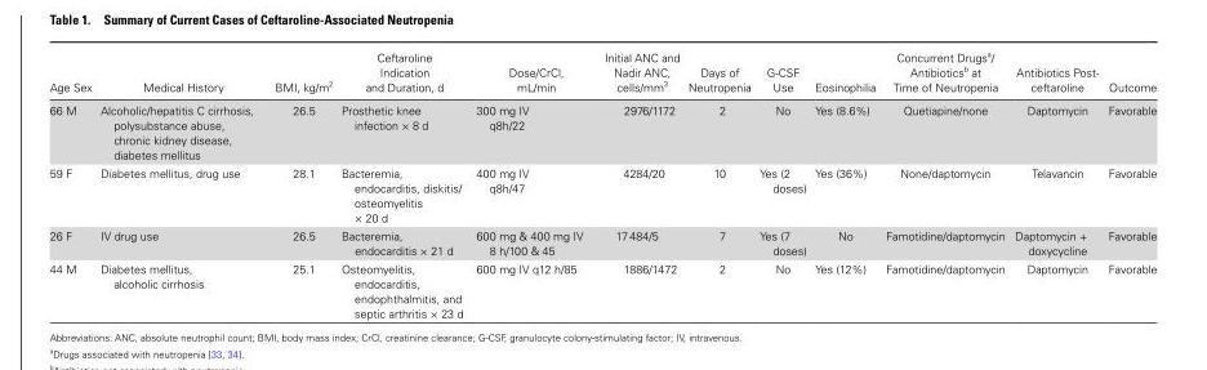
<table><thead><tr><td>Age Sex</td><td>Medical History</td><td>BMI, kg/m<sup>2</sup></td><td>Ceftaroline Indication and Duration, d</td><td>Dose/CrCl, mL/min</td><td>Initial ANC and Nadir ANC, cells/mm<sup>3</sup></td><td>Days of Neutropenia</td><td>G-CSF Use</td><td>Eosinophilia</td><td>Concurrent Drugs<sup>a</sup>/ Antibiotics<sup>b</sup> at Time of Neutropenia</td><td>Antibiotics Post- ceftaroline</td><td>Outcome</td></tr></thead><tbody><tr><td>66 M</td><td>Alcoholic/hepatitis C cirrhosis, polysubstance abuse, chronic kidney disease, diabetes mellitus</td><td>26.5</td><td>Prosthetic knee infection × 8 d</td><td>300 mg IV q8h/22</td><td>2976/1172</td><td>2</td><td>No</td><td>Yes (8.6%)</td><td>Quetiapine/none</td><td>Daptomycin</td><td>Favorable</td></tr><tr><td>59 F</td><td>Diabetes mellitus, drug use</td><td>28.1</td><td>Bacteremia, endocarditis, diskitis/ osteomyelitis × 20 d</td><td>400 mg IV q8h/47</td><td>4284/20</td><td>10</td><td>Yes (2 doses)</td><td>Yes (36%)</td><td>None/daptomycin</td><td>Telavancin</td><td>Favorable</td></tr><tr><td>26 F</td><td>IV drug use</td><td>26.5</td><td>Bacteremia, endocarditis × 21 d</td><td>600 mg &amp; 400 mg IV 8 h/100 &amp; 45</td><td>17 484/5</td><td>7</td><td>Yes (7 doses)</td><td>No</td><td>Famotidine/daptomycin</td><td>Daptomycin + doxycycline</td><td>Favorable</td></tr><tr><td>44 M</td><td>Diabetes mellitus, alcoholic cirrhosis</td><td>25.1</td><td>Osteomyelitis, endocarditis, endophthalmitis, and septic arthritis × 23 d</td><td>600 mg IV q12 h/85</td><td>1886/1472</td><td>2</td><td>No</td><td>Yes (12%)</td><td>Famotidine/daptomycin</td><td>Daptomycin</td><td>Favorable</td></tr></tbody></table>